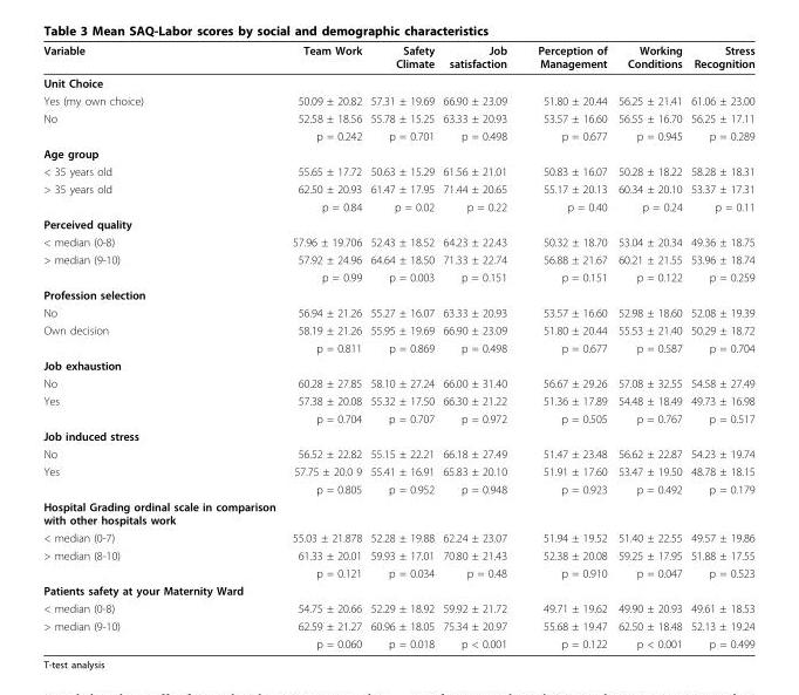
<table><thead><tr><td>Variable</td><td>Team Work</td><td>Safety Climate</td><td>Job satisfaction</td><td>Perception of Management</td><td>Working Conditions</td><td>Stress Recognition</td></tr></thead><tbody><tr><td colspan="7">Unit Choice</td></tr><tr><td>Yes (my own choice)</td><td>50.09 ± 20.82</td><td>57.31 ± 19.69</td><td>66.90 ± 23.09</td><td>51.80 ± 20.44</td><td>56.25 ± 21.41</td><td>61.06 ± 23.00</td></tr><tr><td rowspan="2">No</td><td>52.58 ± 18.56</td><td>55.78 ± 15.25</td><td>63.33 ± 20.93</td><td>53.57 ± 16.60</td><td>56.55 ± 16.70</td><td>56.25 ± 17.11</td></tr><tr><td>p = 0.242</td><td>p = 0.701</td><td>p = 0.498</td><td>p = 0.677</td><td>p = 0.945</td><td>p = 0.289</td></tr><tr><td colspan="7">Age group</td></tr><tr><td>&lt; 35 years old</td><td>55.65 ± 17.72</td><td>50.63 ± 15.29</td><td>61.56 ± 21.01</td><td>50.83 ± 16.07</td><td>50.28 ± 18.22</td><td>58.28 ± 18.31</td></tr><tr><td rowspan="2">&gt; 35 years old</td><td>62.50 ± 20.93</td><td>61.47 ± 17.95</td><td>71.44 ± 20.65</td><td>55.17 ± 20.13</td><td>60.34 ± 20.10</td><td>53.37 ± 17.31</td></tr><tr><td>p = 0.84</td><td>p = 0.02</td><td>p = 0.22</td><td>p = 0.40</td><td>p = 0.24</td><td>p = 0.11</td></tr><tr><td colspan="7">Perceived quality</td></tr><tr><td>&lt; median (0-8)</td><td>57.96 ± 19.706</td><td>52.43 ± 18.52</td><td>64.23 ± 22.43</td><td>50.32 ± 18.70</td><td>53.04 ± 20.34</td><td>49.36 ± 18.75</td></tr><tr><td rowspan="2">&gt; median (9-10)</td><td>57.92 ± 24.96</td><td>64.64 ± 18.50</td><td>71.33 ± 22.74</td><td>56.88 ± 21.67</td><td>60.21 ± 21.55</td><td>53.96 ± 18.74</td></tr><tr><td>p = 0.99</td><td>p = 0.003</td><td>p = 0.151</td><td>p = 0.151</td><td>p = 0.122</td><td>p = 0.259</td></tr><tr><td colspan="7">Profession selection</td></tr><tr><td>No</td><td>56.94 ± 21.26</td><td>55.27 ± 16.07</td><td>63.33 ± 20.93</td><td>53.57 ± 16.60</td><td>52.98 ± 18.60</td><td>52.08 ± 19.39</td></tr><tr><td rowspan="2">Own decision</td><td>58.19 ± 21.26</td><td>55.95 ± 19.69</td><td>66.90 ± 23.09</td><td>51.80 ± 20.44</td><td>55.53 ± 21.40</td><td>50.29 ± 18.72</td></tr><tr><td>p = 0.811</td><td>p = 0.869</td><td>p = 0.498</td><td>p = 0.677</td><td>p = 0.587</td><td>p = 0.704</td></tr><tr><td colspan="7">Job exhaustion</td></tr><tr><td>No</td><td>60.28 ± 27.85</td><td>58.10 ± 27.24</td><td>66.00 ± 31.40</td><td>56.67 ± 29.26</td><td>57.08 ± 32.55</td><td>54.58 ± 27.49</td></tr><tr><td rowspan="2">Yes</td><td>57.38 ± 20.08</td><td>55.32 ± 17.50</td><td>66.30 ± 21.22</td><td>51.36 ± 17.89</td><td>54.48 ± 18.49</td><td>49.73 ± 16.98</td></tr><tr><td>p = 0.704</td><td>p = 0.707</td><td>p = 0.972</td><td>p = 0.505</td><td>p = 0.767</td><td>p = 0.517</td></tr><tr><td colspan="7">Job induced stress</td></tr><tr><td>No</td><td>56.52 ± 22.82</td><td>55.15 ± 22.21</td><td>66.18 ± 27.49</td><td>51.47 ± 23.48</td><td>56.62 ± 22.87</td><td>54.23 ± 19.74</td></tr><tr><td rowspan="2">Yes</td><td>57.75 ± 20.0 9</td><td>55.41 ± 16.91</td><td>65.83 ± 20.10</td><td>51.91 ± 17.60</td><td>53.47 ± 19.50</td><td>48.78 ± 18.15</td></tr><tr><td>p = 0.805</td><td>p = 0.952</td><td>p = 0.948</td><td>p = 0.923</td><td>p = 0.492</td><td>p = 0.179</td></tr><tr><td colspan="7">Hospital Grading ordinal scale in comparison with other hospitals work</td></tr><tr><td>&lt; median (0-7)</td><td>55.03 ± 21.878</td><td>52.28 ± 19.88</td><td>62.24 ± 23.07</td><td>51.94 ± 19.52</td><td>51.40 ± 22.55</td><td>49.57 ± 19.86</td></tr><tr><td rowspan="2">&gt; median (8-10)</td><td>61.33 ± 20.01</td><td>59.93 ± 17.01</td><td>70.80 ± 21.43</td><td>52.38 ± 20.08</td><td>59.25 ± 17.95</td><td>51.88 ± 17.55</td></tr><tr><td>p = 0.121</td><td>p = 0.034</td><td>p = 0.48</td><td>p = 0.910</td><td>p = 0.047</td><td>p = 0.523</td></tr><tr><td colspan="7">Patients safety at your Maternity Ward</td></tr><tr><td>&lt; median (0-8)</td><td>54.75 ± 20.66</td><td>52.29 ± 18.92</td><td>59.92 ± 21.72</td><td>49.71 ± 19.62</td><td>49.90 ± 20.93</td><td>49.61 ± 18.53</td></tr><tr><td rowspan="2">&gt; median (9-10)</td><td>62.59 ± 21.27</td><td>60.96 ± 18.05</td><td>75.34 ± 20.97</td><td>55.68 ± 19.47</td><td>62.50 ± 18.48</td><td>52.13 ± 19.24</td></tr><tr><td>p = 0.060</td><td>p = 0.018</td><td>p &lt; 0.001</td><td>p = 0.122</td><td>p &lt; 0.001</td><td>p = 0.499</td></tr></tbody></table>